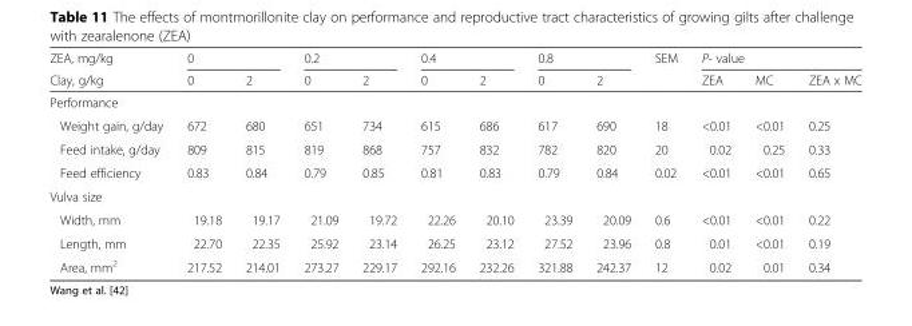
<table><thead><tr><td rowspan="2">ZEA, mg/kg Clay, g/kg</td><td colspan="2">0</td><td colspan="2">0.2</td><td colspan="2">0.4</td><td colspan="2">0.8</td><td rowspan="2">SEM</td><td colspan="3">P- value</td></tr><tr><td>0</td><td>2</td><td>0</td><td>2</td><td>0</td><td>2</td><td>0</td><td>2</td><td>ZEA</td><td>MC</td><td>ZEA x MC</td></tr></thead><tbody><tr><td colspan="13">Performance</td></tr><tr><td>Weight gain, g/day</td><td>672</td><td>680</td><td>651</td><td>734</td><td>615</td><td>686</td><td>617</td><td>690</td><td>18</td><td>&lt;0.01</td><td>&lt;0.01</td><td>0.25</td></tr><tr><td>Feed intake, g/day</td><td>809</td><td>815</td><td>819</td><td>868</td><td>757</td><td>832</td><td>782</td><td>820</td><td>20</td><td>0.02</td><td>0.25</td><td>0.33</td></tr><tr><td>Feed efficiency</td><td>0.83</td><td>0.84</td><td>0.79</td><td>0.85</td><td>0.81</td><td>0.83</td><td>0.79</td><td>0.84</td><td>0.02</td><td>&lt;0.01</td><td>&lt;0.01</td><td>0.65</td></tr><tr><td colspan="13">Vulva size</td></tr><tr><td>Width, mm</td><td>19.18</td><td>19.17</td><td>21.09</td><td>19.72</td><td>22.26</td><td>20.10</td><td>23.39</td><td>20.09</td><td>0.6</td><td>&lt;0.01</td><td>&lt;0.01</td><td>0.22</td></tr><tr><td>Length, mm</td><td>22.70</td><td>22.35</td><td>25.92</td><td>23.14</td><td>26.25</td><td>23.12</td><td>27.52</td><td>23.96</td><td>0.8</td><td>0.01</td><td>&lt;0.01</td><td>0.19</td></tr><tr><td>Area, mm<sup>2</sup></td><td>217.52</td><td>214.01</td><td>273.27</td><td>229.17</td><td>292.16</td><td>232.26</td><td>321.88</td><td>242.37</td><td>12</td><td>0.02</td><td>0.01</td><td>0.34</td></tr></tbody></table>